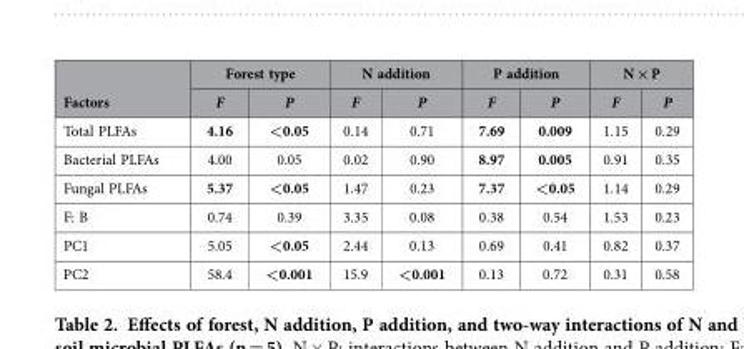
<table><thead><tr><td rowspan="2">Factors</td><td colspan="2">Forest type</td><td colspan="2">N addition</td><td colspan="2">P addition</td><td colspan="2">N × P</td></tr><tr><td>F</td><td>P</td><td>F</td><td>P</td><td>F</td><td>P</td><td>F</td><td>P</td></tr></thead><tbody><tr><td>Total PLFAs</td><td>4.16</td><td>&lt;0.05</td><td>0.14</td><td>0.71</td><td>7.69</td><td>0.009</td><td>1.15</td><td>0.29</td></tr><tr><td>Bacterial PLFAs</td><td>4.00</td><td>0.05</td><td>0.02</td><td>0.90</td><td>8.97</td><td>0.005</td><td>0.91</td><td>0.35</td></tr><tr><td>Fungal PLFAs</td><td>5.37</td><td>&lt;0.05</td><td>1.47</td><td>0.23</td><td>7.37</td><td>&lt;0.05</td><td>1.14</td><td>0.29</td></tr><tr><td>F: B</td><td>0.74</td><td>0.39</td><td>3.35</td><td>0.08</td><td>0.38</td><td>0.54</td><td>1.53</td><td>0.23</td></tr><tr><td>PC1</td><td>5.05</td><td>&lt;0.05</td><td>2.44</td><td>0.13</td><td>0.69</td><td>0.41</td><td>0.82</td><td>0.37</td></tr><tr><td>PC2</td><td>58.4</td><td>&lt;0.001</td><td>15.9</td><td>&lt;0.001</td><td>0.13</td><td>0.72</td><td>0.31</td><td>0.58</td></tr></tbody></table>